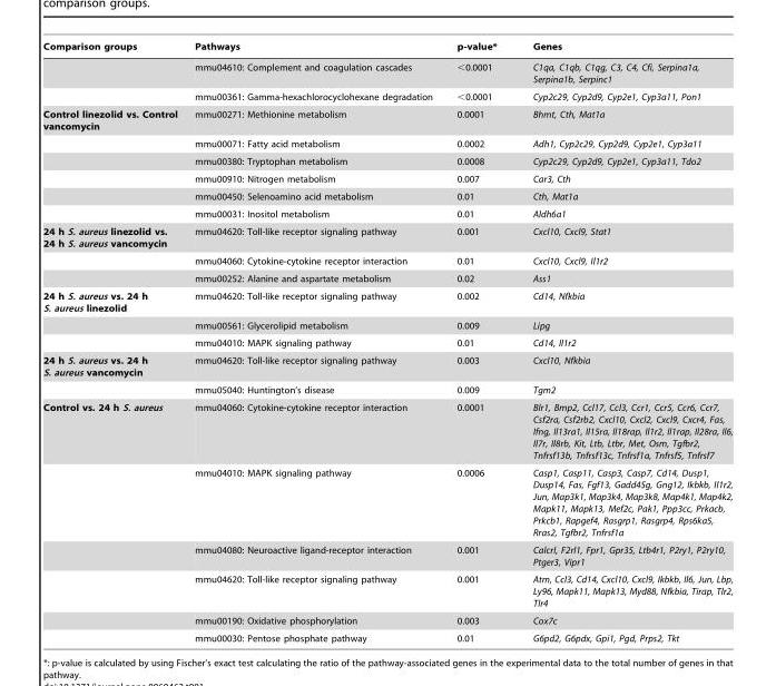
<table><thead><tr><td>Comparison groups</td><td>Pathways</td><td>p-value*</td><td>Genes</td></tr></thead><tbody><tr><td></td><td>mmu04610: Complement and coagulation cascades</td><td>&lt;0.0001</td><td>C1qa, C1qb, C1qg, C3, C4, Cfi, Serpina1a, Serpina1b, Serpinc1</td></tr><tr><td></td><td>mmu00361: Gamma-hexachlorocyclohexane degradation</td><td>&lt;0.0001</td><td>Cyp2c29, Cyp2d9, Cyp2e1, Cyp3a11, Pon1</td></tr><tr><td rowspan="6">Control linezolid vs. Control vancomycin</td><td>mmu00271: Methionine metabolism</td><td>0.0001</td><td>Bhmt, Cth, Mat1a</td></tr><tr><td>mmu00071: Fatty acid metabolism</td><td>0.0002</td><td>Adh1, Cyp2c29, Cyp2d9, Cyp2e1, Cyp3a11</td></tr><tr><td>mmu00380: Tryptophan metabolism</td><td>0.0008</td><td>Cyp2c29, Cyp2d9, Cyp2e1, Cyp3a11, Tdo2</td></tr><tr><td>mmu00910: Nitrogen metabolism</td><td>0.007</td><td>Car3, Cth</td></tr><tr><td>mmu00450: Selenoamino acid metabolism</td><td>0.01</td><td>Cth, Mat1a</td></tr><tr><td>mmu00031: Inositol metabolism</td><td>0.01</td><td>Aldh6a1</td></tr><tr><td rowspan="3">24 h S. aureus linezolid vs. 24 h S. aureus vancomycin</td><td>mmu04620: Toll-like receptor signaling pathway</td><td>0.001</td><td>Cxcl10, Cxcl9, Stat1</td></tr><tr><td>mmu04060: Cytokine-cytokine receptor interaction</td><td>0.01</td><td>Cxcl10, Cxcl9, Il1r2</td></tr><tr><td>mmu00252: Alanine and aspartate metabolism</td><td>0.02</td><td>Ass1</td></tr><tr><td rowspan="3">24 h S. aureus vs. 24 h S. aureus linezolid</td><td>mmu04620: Toll-like receptor signaling pathway</td><td>0.002</td><td>Cd14, Nfkbia</td></tr><tr><td>mmu00561: Glycerolipid metabolism</td><td>0.009</td><td>Lipg</td></tr><tr><td>mmu04010: MAPK signaling pathway</td><td>0.01</td><td>Cd14, Il1r2</td></tr><tr><td rowspan="2">24 h S. aureus vs. 24 h S. aureus vancomycin</td><td>mmu04620: Toll-like receptor signaling pathway</td><td>0.003</td><td>Cxcl10, Nfkbia</td></tr><tr><td>mmu05040: Huntington’s disease</td><td>0.009</td><td>Tgm2</td></tr><tr><td rowspan="6">Control vs. 24 h S. aureus</td><td>mmu04060: Cytokine-cytokine receptor interaction</td><td>0.0001</td><td>Blr1, Bmp2, Ccl17, Ccl3, Ccr1, Ccr5, Ccr6, Ccr7, Csf2ra, Csf2rb2, Cxcl10, Cxcl2, Cxcl9, Cxcr4, Fas, Ifng, Il13ra1, Il15ra, Il18rap, Il1r2, Il1rap, Il28ra, Il6, Il7r, Il8rb, Kit, Ltb, Ltbr, Met, Osm, Tgfbr2, Tnfrsf13b, Tnfrsf13c, Tnfrsf1a, Tnfrsf5, Tnfrsf7</td></tr><tr><td>mmu04010: MAPK signaling pathway</td><td>0.0006</td><td>Casp1, Casp11, Casp3, Casp7, Cd14, Dusp1, Dusp14, Fas, Fgf13, Gadd45g, Gng12, Ikbkb, Il1r2, Jun, Map3k1, Map3k4, Map3k8, Map4k1, Map4k2, Mapk11, Mapk13, Mef2c, Pak1, Ppp3cc, Prkacb, Prkcb1, Rapgef4, Rasgrp1, Rasgrp4, Rps6ka5, Rras2, Tgfbr2, Tnfrsf1a</td></tr><tr><td>mmu04080: Neuroactive ligand-receptor interaction</td><td>0.001</td><td>Calcrl, F2rl1, Fpr1, Gpr35, Ltb4r1, P2ry1, P2ry10, Ptger3, Vipr1</td></tr><tr><td>mmu04620: Toll-like receptor signaling pathway</td><td>0.001</td><td>Atm, Ccl3, Cd14, Cxcl10, Cxcl9, Ikbkb, Il6, Jun, Lbp, Ly96, Mapk11, Mapk13, Myd88, Nfkbia, Tirap, Tlr2, Tlr4</td></tr><tr><td>mmu00190: Oxidative phosphorylation</td><td>0.003</td><td>Cox7c</td></tr><tr><td>mmu00030: Pentose phosphate pathway</td><td>0.01</td><td>G6pd2, G6pdx, Gpi1, Pgd, Prps2, Tkt</td></tr></tbody></table>